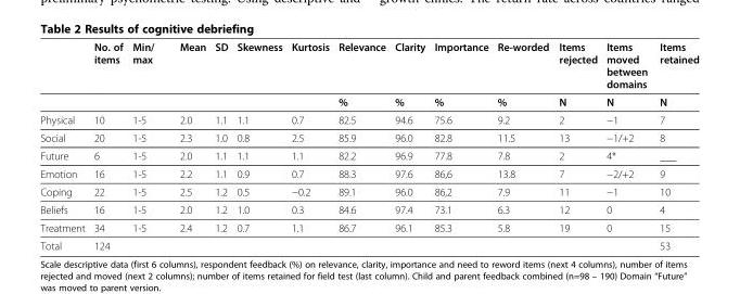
<table><thead><tr><td></td><td>No. of items</td><td>Min/ max</td><td>Mean</td><td>SD</td><td>Skewness</td><td>Kurtosis</td><td>Relevance</td><td>Clarity</td><td>Importance</td><td>Re-worded</td><td>Items rejected</td><td>Items moved between domains</td><td>Items retained</td></tr></thead><tbody><tr><td></td><td></td><td></td><td></td><td></td><td></td><td></td><td>%</td><td>%</td><td>%</td><td>%</td><td>N</td><td>N</td><td>N</td></tr><tr><td>Physical</td><td>10</td><td>1-5</td><td>2.0</td><td>1.1</td><td>1.1</td><td>0.7</td><td>82.5</td><td>94.6</td><td>75.6</td><td>9.2</td><td>2</td><td>−1</td><td>7</td></tr><tr><td>Social</td><td>20</td><td>1-5</td><td>2.3</td><td>1.0</td><td>0.8</td><td>2.5</td><td>85.9</td><td>96.0</td><td>82.8</td><td>11.5</td><td>13</td><td>−1/+2</td><td>8</td></tr><tr><td>Future</td><td>6</td><td>1-5</td><td>2.0</td><td>1.1</td><td>1.1</td><td>1.1</td><td>82.2</td><td>96.9</td><td>77.8</td><td>7.8</td><td>2</td><td>4*</td><td>___</td></tr><tr><td>Emotion</td><td>16</td><td>1-5</td><td>2.2</td><td>1.1</td><td>0.9</td><td>0.7</td><td>88.3</td><td>97.6</td><td>86,6</td><td>13.8</td><td>7</td><td>−2/+2</td><td>9</td></tr><tr><td>Coping</td><td>22</td><td>1-5</td><td>2.5</td><td>1.2</td><td>0.5</td><td>−0.2</td><td>89.1</td><td>96.0</td><td>86,2</td><td>7.9</td><td>11</td><td>−1</td><td>10</td></tr><tr><td>Beliefs</td><td>16</td><td>1-5</td><td>2.0</td><td>1.2</td><td>1.0</td><td>0.3</td><td>84.6</td><td>97.4</td><td>73.1</td><td>6.3</td><td>12</td><td>0</td><td>4</td></tr><tr><td>Treatment</td><td>34</td><td>1-5</td><td>2.4</td><td>1.2</td><td>0.7</td><td>1.1</td><td>86.7</td><td>96.1</td><td>85.3</td><td>5.8</td><td>19</td><td>0</td><td>15</td></tr><tr><td>Total</td><td>124</td><td></td><td></td><td></td><td></td><td></td><td></td><td></td><td></td><td></td><td></td><td></td><td>53</td></tr></tbody></table>